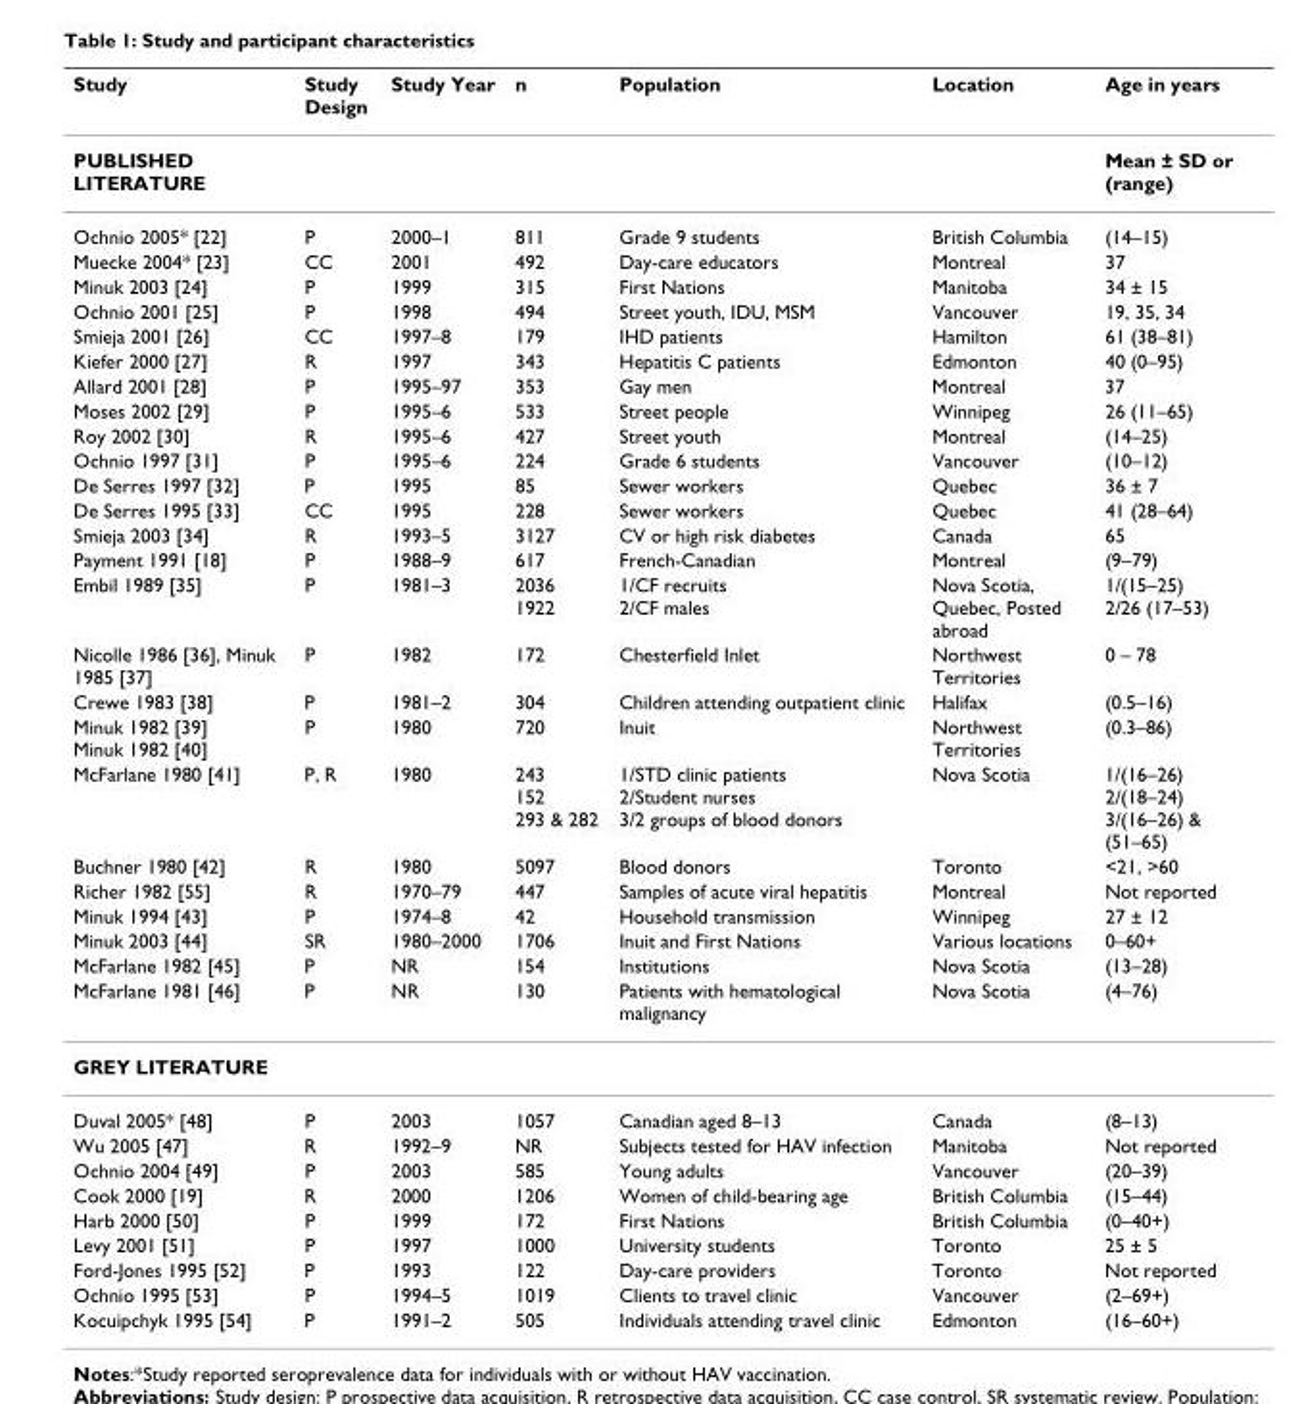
<table><thead><tr><td>Study</td><td>Study Design</td><td>Study Year</td><td>n</td><td>Population</td><td>Location</td><td>Age in years</td></tr></thead><tbody><tr><td>PUBLISHED LITERATURE</td><td></td><td></td><td></td><td></td><td></td><td>Mean ± SD or (range)</td></tr><tr><td>Ochnio 2005* [22]</td><td>P</td><td>2000–1</td><td>811</td><td>Grade 9 students</td><td>British Columbia</td><td>(14–15)</td></tr><tr><td>Muecke 2004* [23]</td><td>CC</td><td>2001</td><td>492</td><td>Day-care educators</td><td>Montreal</td><td>37</td></tr><tr><td>Minuk 2003 [24]</td><td>P</td><td>1999</td><td>315</td><td>First Nations</td><td>Manitoba</td><td>34 ± 15</td></tr><tr><td>Ochnio 2001 [25]</td><td>P</td><td>1998</td><td>494</td><td>Street youth, IDU, MSM</td><td>Vancouver</td><td>19, 35, 34</td></tr><tr><td>Smieja 2001 [26]</td><td>CC</td><td>1997–8</td><td>179</td><td>IHD patients</td><td>Hamilton</td><td>61 (38–81)</td></tr><tr><td>Kiefer 2000 [27]</td><td>R</td><td>1997</td><td>343</td><td>Hepatitis C patients</td><td>Edmonton</td><td>40 (0–95)</td></tr><tr><td>Allard 2001 [28]</td><td>P</td><td>1995–97</td><td>353</td><td>Gay men</td><td>Montreal</td><td>37</td></tr><tr><td>Moses 2002 [29]</td><td>P</td><td>1995–6</td><td>533</td><td>Street people</td><td>Winnipeg</td><td>26 (11–65)</td></tr><tr><td>Roy 2002 [30]</td><td>R</td><td>1995–6</td><td>427</td><td>Street youth</td><td>Montreal</td><td>(14–25)</td></tr><tr><td>Ochnio 1997 [31]</td><td>P</td><td>1995–6</td><td>224</td><td>Grade 6 students</td><td>Vancouver</td><td>(10–12)</td></tr><tr><td>De Serres 1997 [32]</td><td>P</td><td>1995</td><td>85</td><td>Sewer workers</td><td>Quebec</td><td>36 ± 7</td></tr><tr><td>De Serres 1995 [33]</td><td>CC</td><td>1995</td><td>228</td><td>Sewer workers</td><td>Quebec</td><td>41 (28–64)</td></tr><tr><td>Smieja 2003 [34]</td><td>R</td><td>1993–5</td><td>3127</td><td>CV or high risk diabetes</td><td>Canada</td><td>65</td></tr><tr><td>Payment 1991 [18]</td><td>P</td><td>1988–9</td><td>617</td><td>French-Canadian</td><td>Montreal</td><td>(9–79)</td></tr><tr><td>Embil 1989 [35]</td><td>P</td><td>1981–3</td><td>2036 1922</td><td>1/CF recruits 2/CF males</td><td>Nova Scotia, Quebec, Posted abroad</td><td>1/(15–25) 2/26 (17–53)</td></tr><tr><td>Nicolle 1986 [36], Minuk 1985 [37]</td><td>P</td><td>1982</td><td>172</td><td>Chesterfield Inlet</td><td>Northwest Territories</td><td>0 – 78</td></tr><tr><td>Crewe 1983 [38]</td><td>P</td><td>1981–2</td><td>304</td><td>Children attending outpatient clinic</td><td>Halifax</td><td>(0.5–16)</td></tr><tr><td>Minuk 1982 [39] Minuk 1982 [40]</td><td>P</td><td>1980</td><td>720</td><td>Inuit</td><td>Northwest Territories</td><td>(0.3–86)</td></tr><tr><td>McFarlane 1980 [41]</td><td>P, R</td><td>1980</td><td>243 152 293 &amp; 282</td><td>1/STD clinic patients 2/Student nurses 3/2 groups of blood donors</td><td>Nova Scotia</td><td>1/(16–26) 2/(18–24) 3/(16–26) &amp; (51–65)</td></tr><tr><td>Buchner 1980 [42]</td><td>R</td><td>1980</td><td>5097</td><td>Blood donors</td><td>Toronto</td><td>&lt;21, &gt;60</td></tr><tr><td>Richer 1982 [55]</td><td>R</td><td>1970–79</td><td>447</td><td>Samples of acute viral hepatitis</td><td>Montreal</td><td>Not reported</td></tr><tr><td>Minuk 1994 [43]</td><td>P</td><td>1974–8</td><td>42</td><td>Household transmission</td><td>Winnipeg</td><td>27 ± 12</td></tr><tr><td>Minuk 2003 [44]</td><td>SR</td><td>1980–2000</td><td>1706</td><td>Inuit and First Nations</td><td>Various locations</td><td>0–60+</td></tr><tr><td>McFarlane 1982 [45]</td><td>P</td><td>NR</td><td>154</td><td>Institutions</td><td>Nova Scotia</td><td>(13–28)</td></tr><tr><td>McFarlane 1981 [46]</td><td>P</td><td>NR</td><td>130</td><td>Patients with hematological malignancy</td><td>Nova Scotia</td><td>(4–76)</td></tr><tr><td colspan="7">GREY LITERATURE</td></tr><tr><td>Duval 2005* [48]</td><td>P</td><td>2003</td><td>1057</td><td>Canadian aged 8–13</td><td>Canada</td><td>(8–13)</td></tr><tr><td>Wu 2005 [47]</td><td>R</td><td>1992–9</td><td>NR</td><td>Subjects tested for HAV infection</td><td>Manitoba</td><td>Not reported</td></tr><tr><td>Ochnio 2004 [49]</td><td>P</td><td>2003</td><td>585</td><td>Young adults</td><td>Vancouver</td><td>(20–39)</td></tr><tr><td>Cook 2000 [19]</td><td>R</td><td>2000</td><td>1206</td><td>Women of child-bearing age</td><td>British Columbia</td><td>(15–44)</td></tr><tr><td>Harb 2000 [50]</td><td>P</td><td>1999</td><td>172</td><td>First Nations</td><td>British Columbia</td><td>(0–40+)</td></tr><tr><td>Levy 2001 [51]</td><td>P</td><td>1997</td><td>1000</td><td>University students</td><td>Toronto</td><td>25 ± 5</td></tr><tr><td>Ford-Jones 1995 [52]</td><td>P</td><td>1993</td><td>122</td><td>Day-care providers</td><td>Toronto</td><td>Not reported</td></tr><tr><td>Ochnio 1995 [53]</td><td>P</td><td>1994–5</td><td>1019</td><td>Clients to travel clinic</td><td>Vancouver</td><td>(2–69+)</td></tr><tr><td>Kocuipchyk 1995 [54]</td><td>P</td><td>1991–2</td><td>505</td><td>Individuals attending travel clinic</td><td>Edmonton</td><td>(16–60+)</td></tr></tbody></table>